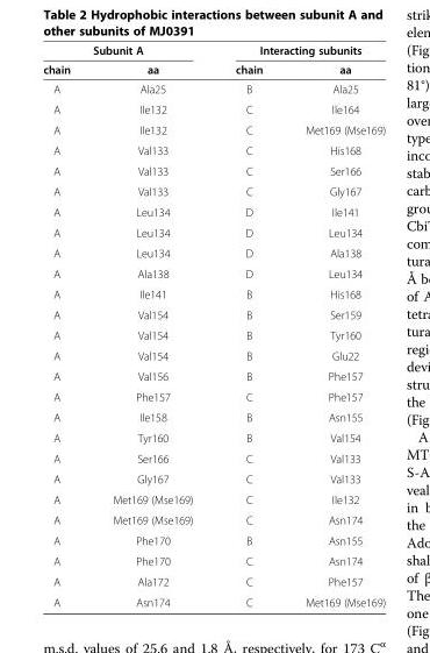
<table><thead><tr><td colspan="2">Subunit A</td><td colspan="2">Interacting subunits</td></tr><tr><td>chain</td><td>aa</td><td>chain</td><td>aa</td></tr></thead><tbody><tr><td>A</td><td>Ala25</td><td>B</td><td>Ala25</td></tr><tr><td>A</td><td>Ile132</td><td>C</td><td>Ile164</td></tr><tr><td>A</td><td>Ile132</td><td>C</td><td>Met169 (Mse169)</td></tr><tr><td>A</td><td>Val133</td><td>C</td><td>His168</td></tr><tr><td>A</td><td>Val133</td><td>C</td><td>Ser166</td></tr><tr><td>A</td><td>Val133</td><td>C</td><td>Gly167</td></tr><tr><td>A</td><td>Leu134</td><td>D</td><td>Ile141</td></tr><tr><td>A</td><td>Leu134</td><td>D</td><td>Leu134</td></tr><tr><td>A</td><td>Leu134</td><td>D</td><td>Ala138</td></tr><tr><td>A</td><td>Ala138</td><td>D</td><td>Leu134</td></tr><tr><td>A</td><td>Ile141</td><td>B</td><td>His168</td></tr><tr><td>A</td><td>Val154</td><td>B</td><td>Ser159</td></tr><tr><td>A</td><td>Val154</td><td>B</td><td>Tyr160</td></tr><tr><td>A</td><td>Val154</td><td>B</td><td>Glu22</td></tr><tr><td>A</td><td>Val156</td><td>B</td><td>Phe157</td></tr><tr><td>A</td><td>Phe157</td><td>C</td><td>Phe157</td></tr><tr><td>A</td><td>Ile158</td><td>B</td><td>Asn155</td></tr><tr><td>A</td><td>Tyr160</td><td>B</td><td>Val154</td></tr><tr><td>A</td><td>Ser166</td><td>C</td><td>Val133</td></tr><tr><td>A</td><td>Gly167</td><td>C</td><td>Val133</td></tr><tr><td>A</td><td>Met169 (Mse169)</td><td>C</td><td>Ile132</td></tr><tr><td>A</td><td>Met169 (Mse169)</td><td>C</td><td>Asn174</td></tr><tr><td>A</td><td>Phe170</td><td>B</td><td>Asn155</td></tr><tr><td>A</td><td>Phe170</td><td>C</td><td>Asn174</td></tr><tr><td>A</td><td>Ala172</td><td>C</td><td>Phe157</td></tr><tr><td>A</td><td>Asn174</td><td>C</td><td>Met169 (Mse169)</td></tr></tbody></table>